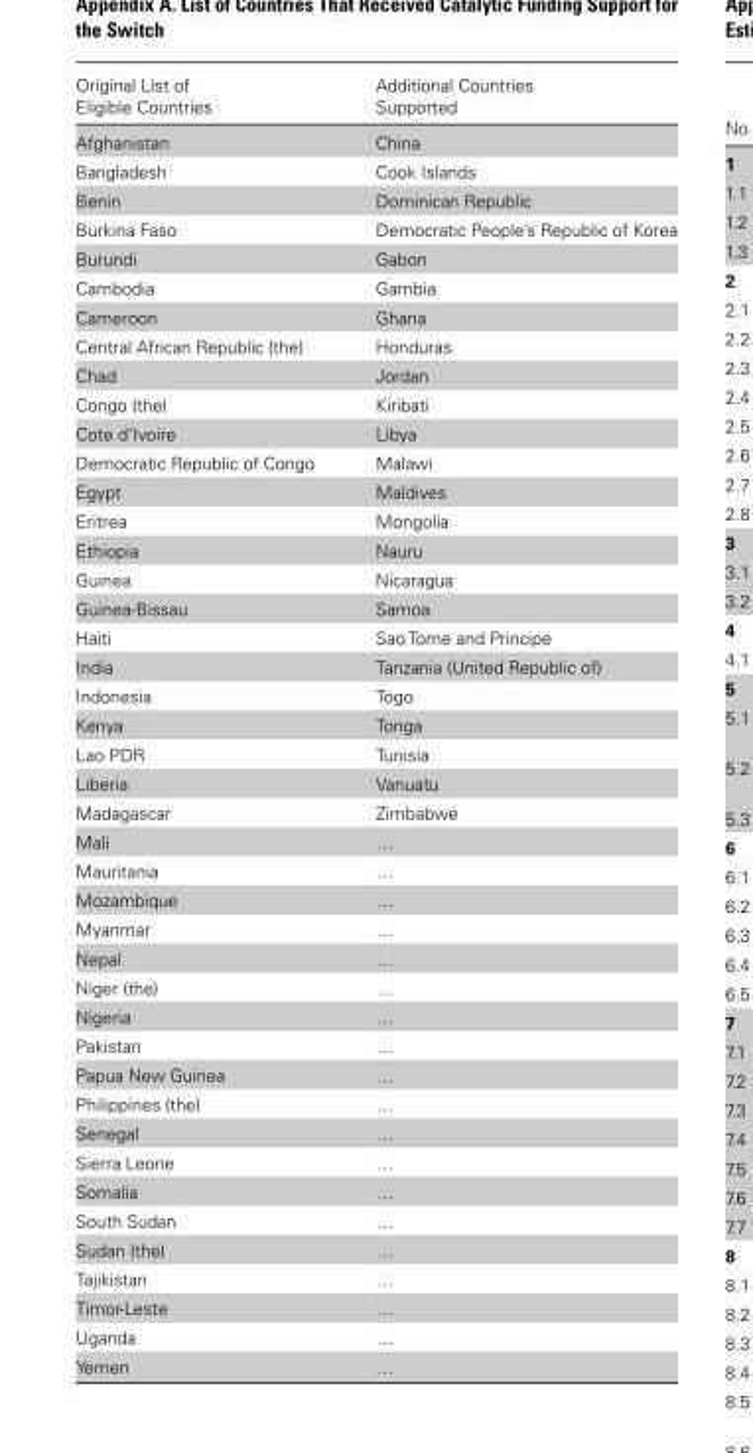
<table><thead><tr><td>Original List of Eligible Countries</td><td>Additional Countries Supported</td></tr></thead><tbody><tr><td>Afghanistan</td><td>China</td></tr><tr><td>Bangladesh</td><td>Cook Islands</td></tr><tr><td>Benin</td><td>Dominican Republic</td></tr><tr><td>Burkina Faso</td><td>Democratic People’s Republic of Korea</td></tr><tr><td>Burundi</td><td>Gabon</td></tr><tr><td>Cambodia</td><td>Gambia</td></tr><tr><td>Cameroon</td><td>Ghana</td></tr><tr><td>Central African Republic (the)</td><td>Honduras</td></tr><tr><td>Chad</td><td>Jordan</td></tr><tr><td>Congo (the)</td><td>Kiribati</td></tr><tr><td>Cote d’Ivoire</td><td>Libya</td></tr><tr><td>Democratic Republic of Congo</td><td>Malawi</td></tr><tr><td>Egypt</td><td>Maldives</td></tr><tr><td>Eritrea</td><td>Mongolia</td></tr><tr><td>Ethiopia</td><td>Nauru</td></tr><tr><td>Guinea</td><td>Nicaragua</td></tr><tr><td>Guinea-Bissau</td><td>Samoa</td></tr><tr><td>Haiti</td><td>Sao Tome and Principe</td></tr><tr><td>India</td><td>Tanzania (United Republic of)</td></tr><tr><td>Indonesia</td><td>Togo</td></tr><tr><td>Kenya</td><td>Tonga</td></tr><tr><td>Lao PDR</td><td>Tunisia</td></tr><tr><td>Liberia</td><td>Vanuatu</td></tr><tr><td>Madagascar</td><td>Zimbabwe</td></tr><tr><td>Mali</td><td>…</td></tr><tr><td>Mauritania</td><td>…</td></tr><tr><td>Mozambique</td><td>…</td></tr><tr><td>Myanmar</td><td>…</td></tr><tr><td>Nepal</td><td>…</td></tr><tr><td>Niger (the)</td><td>…</td></tr><tr><td>Nigeria</td><td>…</td></tr><tr><td>Pakistan</td><td>…</td></tr><tr><td>Papua New Guinea</td><td>…</td></tr><tr><td>Philippines (the)</td><td>…</td></tr><tr><td>Senegal</td><td>…</td></tr><tr><td>Sierra Leone</td><td>…</td></tr><tr><td>Somalia</td><td>…</td></tr><tr><td>South Sudan</td><td>…</td></tr><tr><td>Sudan (the)</td><td>…</td></tr><tr><td>Tajikistan</td><td>…</td></tr><tr><td>Timor-Leste</td><td>…</td></tr><tr><td>Uganda</td><td>…</td></tr><tr><td>Yemen</td><td>…</td></tr></tbody></table>